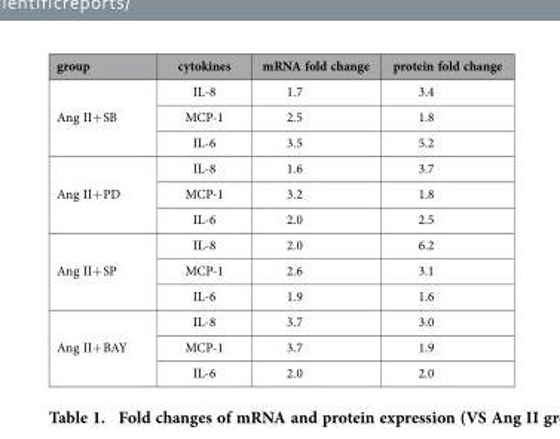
<table><thead><tr><td>group</td><td>cytokines</td><td>mRNA fold change</td><td>protein fold change</td></tr></thead><tbody><tr><td rowspan="3">Ang II+ SB</td><td>IL-8</td><td>1.7</td><td>3.4</td></tr><tr><td>MCP-1</td><td>2.5</td><td>1.8</td></tr><tr><td>IL-6</td><td>3.5</td><td>5.2</td></tr><tr><td rowspan="3">Ang II+ PD</td><td>IL-8</td><td>1.6</td><td>3.7</td></tr><tr><td>MCP-1</td><td>3.2</td><td>1.8</td></tr><tr><td>IL-6</td><td>2.0</td><td>2.5</td></tr><tr><td rowspan="3">Ang II+ SP</td><td>IL-8</td><td>2.0</td><td>6.2</td></tr><tr><td>MCP-1</td><td>2.6</td><td>3.1</td></tr><tr><td>IL-6</td><td>1.9</td><td>1.6</td></tr><tr><td rowspan="3">Ang II+ BAY</td><td>IL-8</td><td>3.7</td><td>3.0</td></tr><tr><td>MCP-1</td><td>3.7</td><td>1.9</td></tr><tr><td>IL-6</td><td>2.0</td><td>2.0</td></tr></tbody></table>